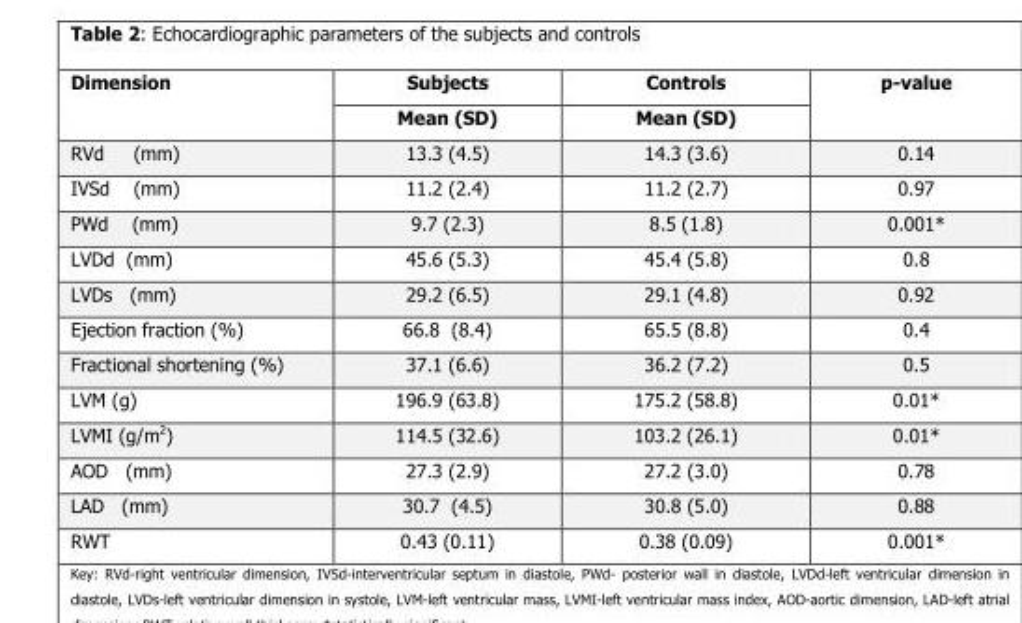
<table><thead><tr><td rowspan="2">Dimension</td><td rowspan="2">Subjects Mean (SD)</td><td rowspan="2">Controls Mean (SD)</td><td rowspan="2">p-value</td></tr><tr></tr></thead><tbody><tr><td>RVd (mm)</td><td>13.3 (4.5)</td><td>14.3 (3.6)</td><td>0.14</td></tr><tr><td>IVSd (mm)</td><td>11.2 (2.4)</td><td>11.2 (2.7)</td><td>0.97</td></tr><tr><td>PWd (mm)</td><td>9.7 (2.3)</td><td>8.5 (1.8)</td><td>0.001*</td></tr><tr><td>LVDd (mm)</td><td>45.6 (5.3)</td><td>45.4 (5.8)</td><td>0.8</td></tr><tr><td>LVDs (mm)</td><td>29.2 (6.5)</td><td>29.1 (4.8)</td><td>0.92</td></tr><tr><td>Ejection fraction (%)</td><td>66.8 (8.4)</td><td>65.5 (8.8)</td><td>0.4</td></tr><tr><td>Fractional shortening (%)</td><td>37.1 (6.6)</td><td>36.2 (7.2)</td><td>0.5</td></tr><tr><td>LVM (g)</td><td>196.9 (63.8)</td><td>175.2 (58.8)</td><td>0.01*</td></tr><tr><td>LVMI (g/m<sup>2</sup>)</td><td>114.5 (32.6)</td><td>103.2 (26.1)</td><td>0.01*</td></tr><tr><td>AOD (mm)</td><td>27.3 (2.9)</td><td>27.2 (3.0)</td><td>0.78</td></tr><tr><td>LAD (mm)</td><td>30.7 (4.5)</td><td>30.8 (5.0)</td><td>0.88</td></tr><tr><td>RWT</td><td>0.43 (0.11)</td><td>0.38 (0.09)</td><td>0.001*</td></tr></tbody></table>